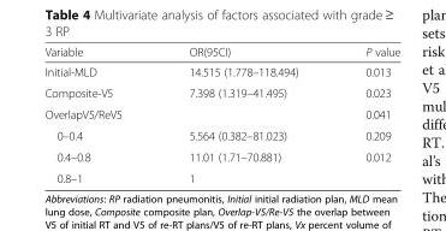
<table><thead><tr><td>Variable</td><td>OR(95CI)</td><td>P value</td></tr></thead><tbody><tr><td>Initial-MLD</td><td>14.515 (1.778–118.494)</td><td>0.013</td></tr><tr><td>Composite-V5</td><td>7.398 (1.319–41.495)</td><td>0.023</td></tr><tr><td>OverlapV5/ReV5</td><td></td><td>0.041</td></tr><tr><td>0–0.4</td><td>5.564 (0.382–81.023)</td><td>0.209</td></tr><tr><td>0.4–0.8</td><td>11.01 (1.71–70.881)</td><td>0.012</td></tr><tr><td>0.8–1</td><td>1</td><td></td></tr></tbody></table>